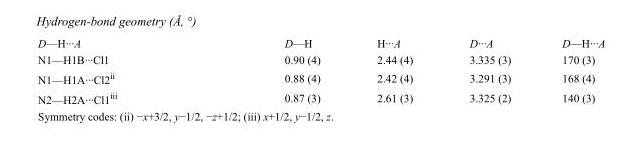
<table><tbody><tr><td>D—H···A</td><td>D—H</td><td>H···A</td><td>D···A</td><td>D—H···A</td></tr><tr><td>N1—H1B···Cl1</td><td>0.90 (4)</td><td>2.44 (4)</td><td>3.335 (3)</td><td>170 (3)</td></tr><tr><td>N1—H1A···Cl2<sup>ii</sup></td><td>0.88 (4)</td><td>2.42 (4)</td><td>3.291 (3)</td><td>168 (4)</td></tr><tr><td>N2—H2A···Cl1<sup>iii</sup></td><td>0.87 (3)</td><td>2.61 (3)</td><td>3.325 (2)</td><td>140 (3)</td></tr></tbody></table>